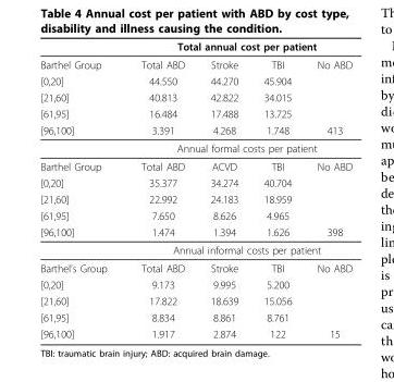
<table><thead><tr><td rowspan="2">Barthel Group</td><td colspan="4">Total annual cost per patient</td></tr><tr><td>Total ABD</td><td>Stroke</td><td>TBI</td><td>No ABD</td></tr></thead><tbody><tr><td>[0,20]</td><td>44.550</td><td>44.270</td><td>45.904</td><td></td></tr><tr><td>[21,60]</td><td>40.813</td><td>42.822</td><td>34.015</td><td></td></tr><tr><td>[61,95]</td><td>16.484</td><td>17.488</td><td>13.725</td><td></td></tr><tr><td rowspan="2">[96,100]</td><td>3.391</td><td>4.268</td><td>1.748</td><td>413</td></tr><tr><td colspan="4">Annual formal costs per patient</td></tr><tr><td>Barthel Group</td><td>Total ABD</td><td>ACVD</td><td>TBI</td><td>No ABD</td></tr><tr><td>[0,20]</td><td>35.377</td><td>34.274</td><td>40.704</td><td></td></tr><tr><td>[21,60]</td><td>22.992</td><td>24.183</td><td>18.959</td><td></td></tr><tr><td>[61,95]</td><td>7.650</td><td>8.626</td><td>4.965</td><td></td></tr><tr><td rowspan="2">[96,100]</td><td>1.474</td><td>1.394</td><td>1.626</td><td>398</td></tr><tr><td colspan="4">Annual informal costs per patient</td></tr><tr><td>Barthel’s Group</td><td>Total ABD</td><td>Stroke</td><td>TBI</td><td>No ABD</td></tr><tr><td>[0,20]</td><td>9.173</td><td>9.995</td><td>5.200</td><td></td></tr><tr><td>[21,60]</td><td>17.822</td><td>18.639</td><td>15.056</td><td></td></tr><tr><td>[61,95]</td><td>8.834</td><td>8.861</td><td>8.761</td><td></td></tr><tr><td>[96,100]</td><td>1.917</td><td>2.874</td><td>122</td><td>15</td></tr></tbody></table>